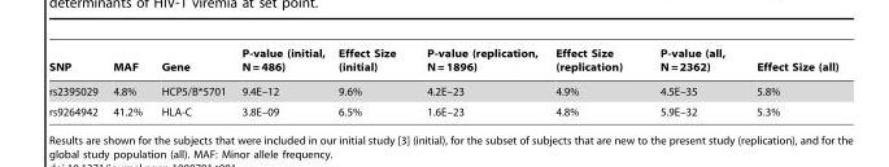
<table><thead><tr><td>SNP</td><td>MAF</td><td>Gene</td><td>P-value (initial, N = 486)</td><td>Effect Size (initial)</td><td>P-value (replication, N = 1896)</td><td>Effect Size (replication)</td><td>P-value (all, N = 2362)</td><td>Effect Size (all)</td></tr></thead><tbody><tr><td>rs2395029</td><td>4.8%</td><td>HCP5/B*5701</td><td>9.4E–12</td><td>9.6%</td><td>4.2E–23</td><td>4.9%</td><td>4.5E–35</td><td>5.8%</td></tr><tr><td>rs9264942</td><td>41.2%</td><td>HLA-C</td><td>3.8E–09</td><td>6.5%</td><td>1.6E–23</td><td>4.8%</td><td>5.9E–32</td><td>5.3%</td></tr></tbody></table>